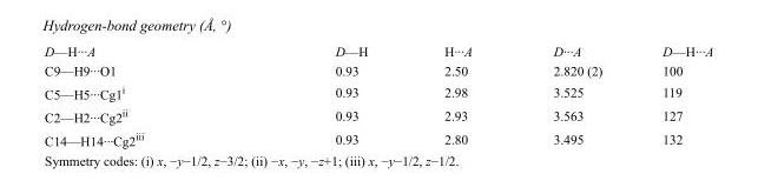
<table><tbody><tr><td>D—H···A</td><td>D—H</td><td>H···A</td><td>D···A</td><td>D—H···A</td></tr><tr><td>C9—H9···O1</td><td>0.93</td><td>2.50</td><td>2.820 (2)</td><td>100</td></tr><tr><td>C5—H5···Cg1<sup>i</sup></td><td>0.93</td><td>2.98</td><td>3.525</td><td>119</td></tr><tr><td>C2—H2···Cg2<sup>ii</sup></td><td>0.93</td><td>2.93</td><td>3.563</td><td>127</td></tr><tr><td>C14—H14···Cg2<sup>iii</sup></td><td>0.93</td><td>2.80</td><td>3.495</td><td>132</td></tr></tbody></table>